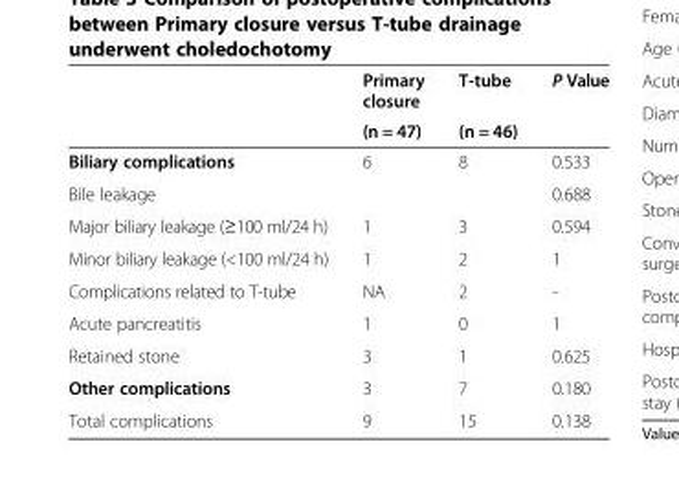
<table><thead><tr><td rowspan="2"></td><td rowspan="2">Primary closure (n = 47)</td><td rowspan="2">T-tube (n = 46)</td><td rowspan="2">P Value</td></tr><tr></tr></thead><tbody><tr><td>Biliary complications</td><td>6</td><td>8</td><td>0.533</td></tr><tr><td>Bile leakage</td><td></td><td></td><td>0.688</td></tr><tr><td>Major biliary leakage (≥100 ml/24 h)</td><td>1</td><td>3</td><td>0.594</td></tr><tr><td>Minor biliary leakage (&lt;100 ml/24 h)</td><td>1</td><td>2</td><td>1</td></tr><tr><td>Complications related to T-tube</td><td>NA</td><td>2</td><td>-</td></tr><tr><td>Acute pancreatitis</td><td>1</td><td>0</td><td>1</td></tr><tr><td>Retained stone</td><td>3</td><td>1</td><td>0.625</td></tr><tr><td>Other complications</td><td>3</td><td>7</td><td>0.180</td></tr><tr><td>Total complications</td><td>9</td><td>15</td><td>0.138</td></tr></tbody></table>